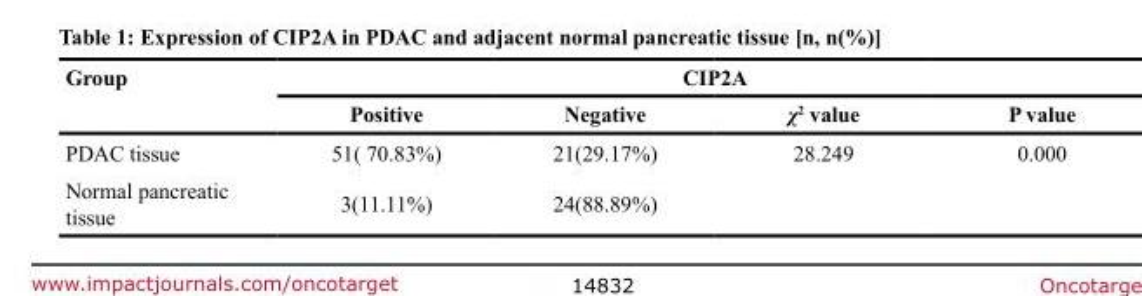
<table><thead><tr><td rowspan="2">Group</td><td colspan="4">CIP2A</td></tr><tr><td>Positive</td><td>Negative</td><td>χ<sup>2</sup> value</td><td>P value</td></tr></thead><tbody><tr><td>PDAC tissue</td><td>51( 70.83%)</td><td>21(29.17%)</td><td>28.249</td><td>0.000</td></tr><tr><td>Normal pancreatic tissue</td><td>3(11.11%)</td><td>24(88.89%)</td><td></td><td></td></tr></tbody></table>